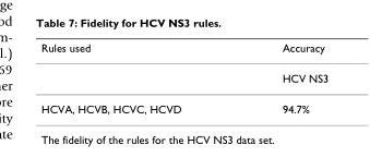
<table><thead><tr><td>Rules used</td><td>Accuracy</td></tr></thead><tbody><tr><td></td><td>HCV NS3</td></tr><tr><td>HCVA, HCVB, HCVC, HCVD</td><td>94.7%</td></tr></tbody></table>